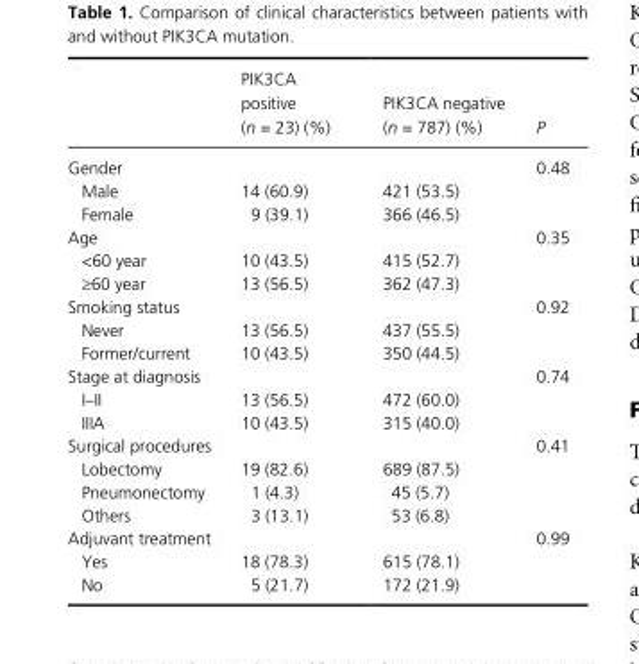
<table><thead><tr><td></td><td>PIK3CA positive (n = 23) (%)</td><td>PIK3CA negative (n = 787) (%)</td><td>P</td></tr></thead><tbody><tr><td colspan="3">Gender</td><td rowspan="3">0.48</td></tr><tr><td>Male</td><td>14 (60.9)</td><td>421 (53.5)</td></tr><tr><td>Female</td><td>9 (39.1)</td><td>366 (46.5)</td></tr><tr><td colspan="3">Age</td><td rowspan="3">0.35</td></tr><tr><td>&lt;60 year</td><td>10 (43.5)</td><td>415 (52.7)</td></tr><tr><td>≥60 year</td><td>13 (56.5)</td><td>362 (47.3)</td></tr><tr><td colspan="3">Smoking status</td><td rowspan="3">0.92</td></tr><tr><td>Never</td><td>13 (56.5)</td><td>437 (55.5)</td></tr><tr><td>Former/current</td><td>10 (43.5)</td><td>350 (44.5)</td></tr><tr><td colspan="3">Stage at diagnosis</td><td rowspan="3">0.74</td></tr><tr><td>I–II</td><td>13 (56.5)</td><td>472 (60.0)</td></tr><tr><td>IIIA</td><td>10 (43.5)</td><td>315 (40.0)</td></tr><tr><td colspan="3">Surgical procedures</td><td rowspan="4">0.41</td></tr><tr><td>Lobectomy</td><td>19 (82.6)</td><td>689 (87.5)</td></tr><tr><td>Pneumonectomy</td><td>1 (4.3)</td><td>45 (5.7)</td></tr><tr><td>Others</td><td>3 (13.1)</td><td>53 (6.8)</td></tr><tr><td colspan="3">Adjuvant treatment</td><td rowspan="3">0.99</td></tr><tr><td>Yes</td><td>18 (78.3)</td><td>615 (78.1)</td></tr><tr><td>No</td><td>5 (21.7)</td><td>172 (21.9)</td></tr></tbody></table>